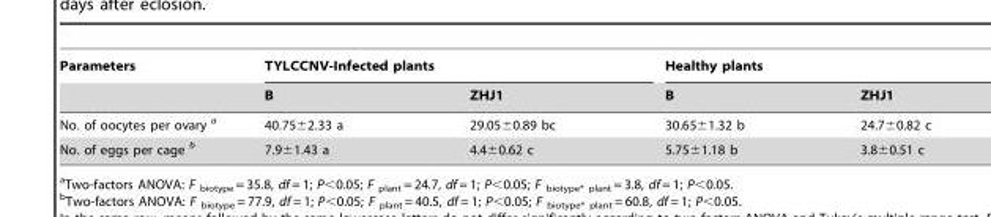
<table><thead><tr><td rowspan="2">Parameters</td><td colspan="2">TYLCCNV-Infected plants</td><td colspan="2">Healthy plants</td></tr><tr><td>B</td><td>ZHJ1</td><td>B</td><td>ZHJ1</td></tr></thead><tbody><tr><td>No. of oocytes per ovary a</td><td>40.75±2.33 a</td><td>29.05±0.89 bc</td><td>30.65±1.32 b</td><td>24.7±0.82 c</td></tr><tr><td>No. of eggs per cage b</td><td>7.9±1.43 a</td><td>4.4±0.62 c</td><td>5.75±1.18 b</td><td>3.8±0.51 c</td></tr></tbody></table>